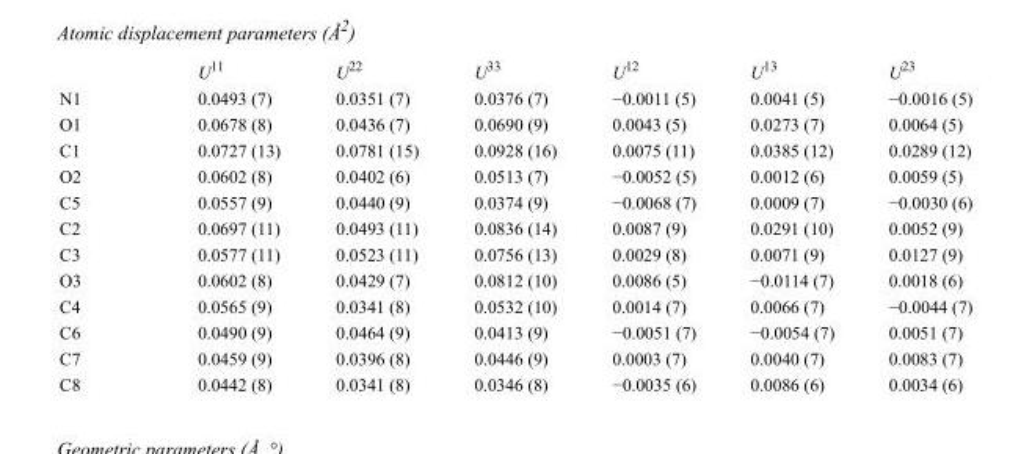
<table><thead><tr><td></td><td>U<sup>11</sup></td><td>U<sup>22</sup></td><td>U<sup>33</sup></td><td>U<sup>12</sup></td><td>U<sup>13</sup></td><td>U<sup>23</sup></td></tr></thead><tbody><tr><td>N1</td><td>0.0493 (7)</td><td>0.0351 (7)</td><td>0.0376 (7)</td><td>−0.0011 (5)</td><td>0.0041 (5)</td><td>−0.0016 (5)</td></tr><tr><td>O1</td><td>0.0678 (8)</td><td>0.0436 (7)</td><td>0.0690 (9)</td><td>0.0043 (5)</td><td>0.0273 (7)</td><td>0.0064 (5)</td></tr><tr><td>C1</td><td>0.0727 (13)</td><td>0.0781 (15)</td><td>0.0928 (16)</td><td>0.0075 (11)</td><td>0.0385 (12)</td><td>0.0289 (12)</td></tr><tr><td>O2</td><td>0.0602 (8)</td><td>0.0402 (6)</td><td>0.0513 (7)</td><td>−0.0052 (5)</td><td>0.0012 (6)</td><td>0.0059 (5)</td></tr><tr><td>C5</td><td>0.0557 (9)</td><td>0.0440 (9)</td><td>0.0374 (9)</td><td>−0.0068 (7)</td><td>0.0009 (7)</td><td>−0.0030 (6)</td></tr><tr><td>C2</td><td>0.0697 (11)</td><td>0.0493 (11)</td><td>0.0836 (14)</td><td>0.0087 (9)</td><td>0.0291 (10)</td><td>0.0052 (9)</td></tr><tr><td>C3</td><td>0.0577 (11)</td><td>0.0523 (11)</td><td>0.0756 (13)</td><td>0.0029 (8)</td><td>0.0071 (9)</td><td>0.0127 (9)</td></tr><tr><td>O3</td><td>0.0602 (8)</td><td>0.0429 (7)</td><td>0.0812 (10)</td><td>0.0086 (5)</td><td>−0.0114 (7)</td><td>0.0018 (6)</td></tr><tr><td>C4</td><td>0.0565 (9)</td><td>0.0341 (8)</td><td>0.0532 (10)</td><td>0.0014 (7)</td><td>0.0066 (7)</td><td>−0.0044 (7)</td></tr><tr><td>C6</td><td>0.0490 (9)</td><td>0.0464 (9)</td><td>0.0413 (9)</td><td>−0.0051 (7)</td><td>−0.0054 (7)</td><td>0.0051 (7)</td></tr><tr><td>C7</td><td>0.0459 (9)</td><td>0.0396 (8)</td><td>0.0446 (9)</td><td>0.0003 (7)</td><td>0.0040 (7)</td><td>0.0083 (7)</td></tr><tr><td>C8</td><td>0.0442 (8)</td><td>0.0341 (8)</td><td>0.0346 (8)</td><td>−0.0035 (6)</td><td>0.0086 (6)</td><td>0.0034 (6)</td></tr></tbody></table>